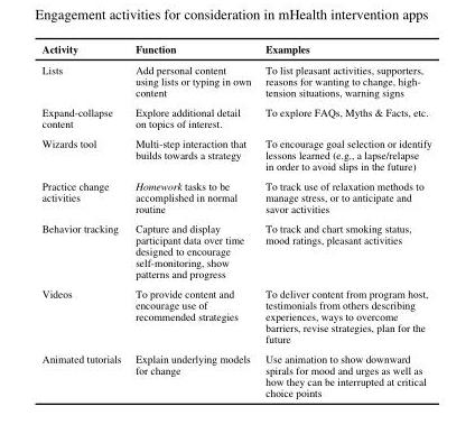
<table><thead><tr><td>Activity</td><td>Function</td><td>Examples</td></tr></thead><tbody><tr><td>Lists</td><td>Add personal content using lists or typing in own content</td><td>To list pleasant activities, supporters, reasons for wanting to change, high- tension situations, warning signs</td></tr><tr><td>Expand-collapse content</td><td>Explore additional detail on topics of interest.</td><td>To explore FAQs, Myths &amp; Facts, etc.</td></tr><tr><td>Wizards tool</td><td>Multi-step interaction that builds towards a strategy</td><td>To encourage goal selection or identify lessons learned (e.g., a lapse/relapse in order to avoid slips in the future)</td></tr><tr><td>Practice change activities</td><td>Homework tasks to be accomplished in normal routine</td><td>To track use of relaxation methods to manage stress, or to anticipate and savor activities</td></tr><tr><td>Behavior tracking</td><td>Capture and display participant data over time designed to encourage self-monitoring, show patterns and progress</td><td>To track and chart smoking status, mood ratings, pleasant activities</td></tr><tr><td>Videos</td><td>To provide content and encourage use of recommended strategies</td><td>To deliver content from program host, testimonials from others describing experiences, ways to overcome barriers, revise strategies, plan for the future</td></tr><tr><td>Animated tutorials</td><td>Explain underlying models for change</td><td>Use animation to show downward spirals for mood and urges as well as how they can be interrupted at critical choice points</td></tr></tbody></table>